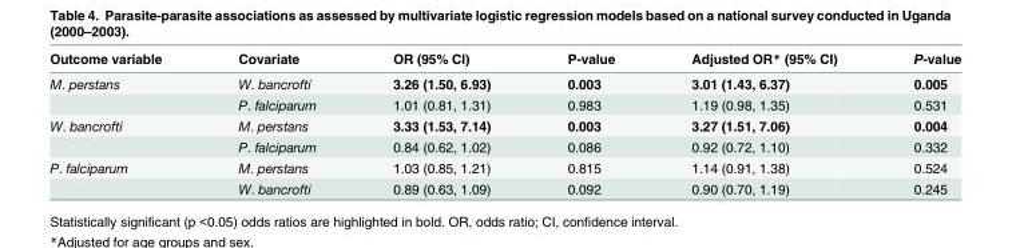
<table><thead><tr><td>Outcome variable</td><td>Covariate</td><td>OR (95% CI)</td><td>P-value</td><td>Adjusted OR* (95% CI)</td><td>P-value</td></tr></thead><tbody><tr><td rowspan="2">M. perstans</td><td>W. bancrofti</td><td>3.26 (1.50, 6.93)</td><td>0.003</td><td>3.01 (1.43, 6.37)</td><td>0.005</td></tr><tr><td>P. falciparum</td><td>1.01 (0.81, 1.31)</td><td>0.983</td><td>1.19 (0.98, 1.35)</td><td>0.531</td></tr><tr><td rowspan="2">W. bancrofti</td><td>M. perstans</td><td>3.33 (1.53, 7.14)</td><td>0.003</td><td>3.27 (1.51, 7.06)</td><td>0.004</td></tr><tr><td>P. falciparum</td><td>0.84 (0.62, 1.02)</td><td>0.086</td><td>0.92 (0.72, 1.10)</td><td>0.332</td></tr><tr><td rowspan="2">P. falciparum</td><td>M. perstans</td><td>1.03 (0.85, 1.21)</td><td>0.815</td><td>1.14 (0.91, 1.38)</td><td>0.524</td></tr><tr><td>W. bancrofti</td><td>0.89 (0.63, 1.09)</td><td>0.092</td><td>0.90 (0.70, 1.19)</td><td>0.245</td></tr></tbody></table>